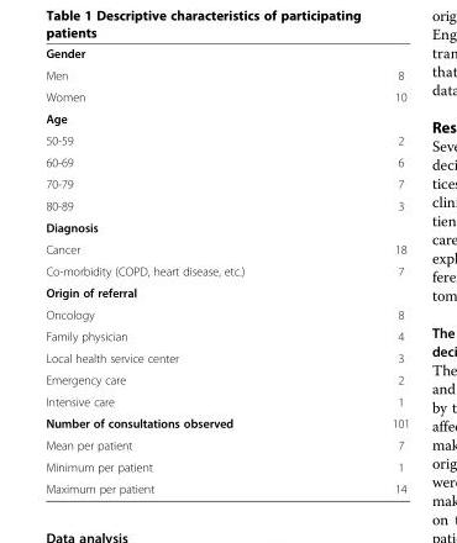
<table><tbody><tr><td colspan="2">Gender</td></tr><tr><td>Men</td><td>8</td></tr><tr><td>Women</td><td>10</td></tr><tr><td colspan="2">Age</td></tr><tr><td>50-59</td><td>2</td></tr><tr><td>60-69</td><td>6</td></tr><tr><td>70-79</td><td>7</td></tr><tr><td>80-89</td><td>3</td></tr><tr><td colspan="2">Diagnosis</td></tr><tr><td>Cancer</td><td>18</td></tr><tr><td>Co-morbidity (COPD, heart disease, etc.)</td><td>7</td></tr><tr><td colspan="2">Origin of referral</td></tr><tr><td>Oncology</td><td>8</td></tr><tr><td>Family physician</td><td>4</td></tr><tr><td>Local health service center</td><td>3</td></tr><tr><td>Emergency care</td><td>2</td></tr><tr><td>Intensive care</td><td>1</td></tr><tr><td>Number of consultations observed</td><td>101</td></tr><tr><td>Mean per patient</td><td>7</td></tr><tr><td>Minimum per patient</td><td>1</td></tr><tr><td>Maximum per patient</td><td>14</td></tr></tbody></table>